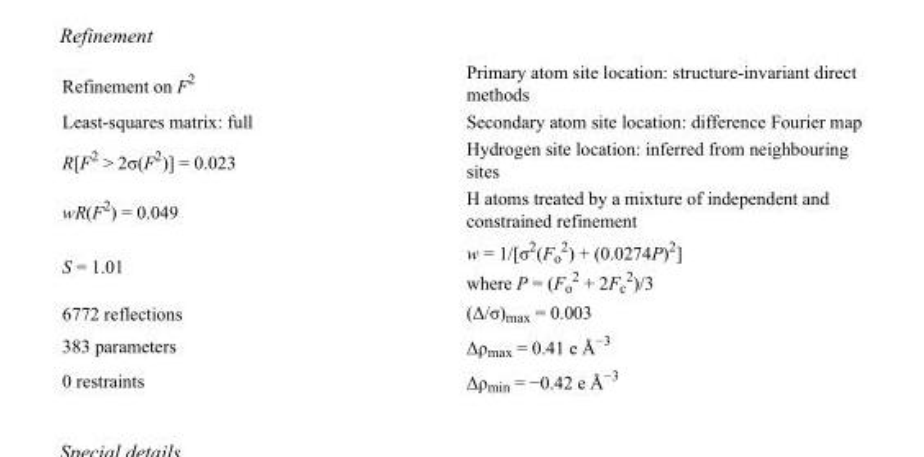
<table><tbody><tr><td>Refinement on F<sup>2</sup></td><td>Primary atom site location: structure-invariant direct methods</td></tr><tr><td>Least-squares matrix: full</td><td>Secondary atom site location: difference Fourier map</td></tr><tr><td>R[F<sup>2</sup> &gt; 2σ(F<sup>2</sup>)] = 0.023</td><td>Hydrogen site location: inferred from neighbouring sites</td></tr><tr><td>wR(F<sup>2</sup>) = 0.049</td><td>H atoms treated by a mixture of independent and constrained refinement</td></tr><tr><td>S = 1.01</td><td>w = 1/[σ<sup>2</sup>(F<sub>o</sub> <sup>2</sup>) + (0.0274P)<sup>2</sup>] where P = (F<sub>o</sub> <sup>2</sup> + 2F<sub>c</sub> <sup>2</sup>)/3</td></tr><tr><td>6772 reflections</td><td>(Δ/σ)<sub>max</sub> = 0.003</td></tr><tr><td>383 parameters</td><td>Δρ<sub>max</sub> = 0.41 e Å<sup>−3</sup></td></tr><tr><td>0 restraints</td><td>Δρ<sub>min</sub> = −0.42 e Å<sup>−3</sup></td></tr></tbody></table>